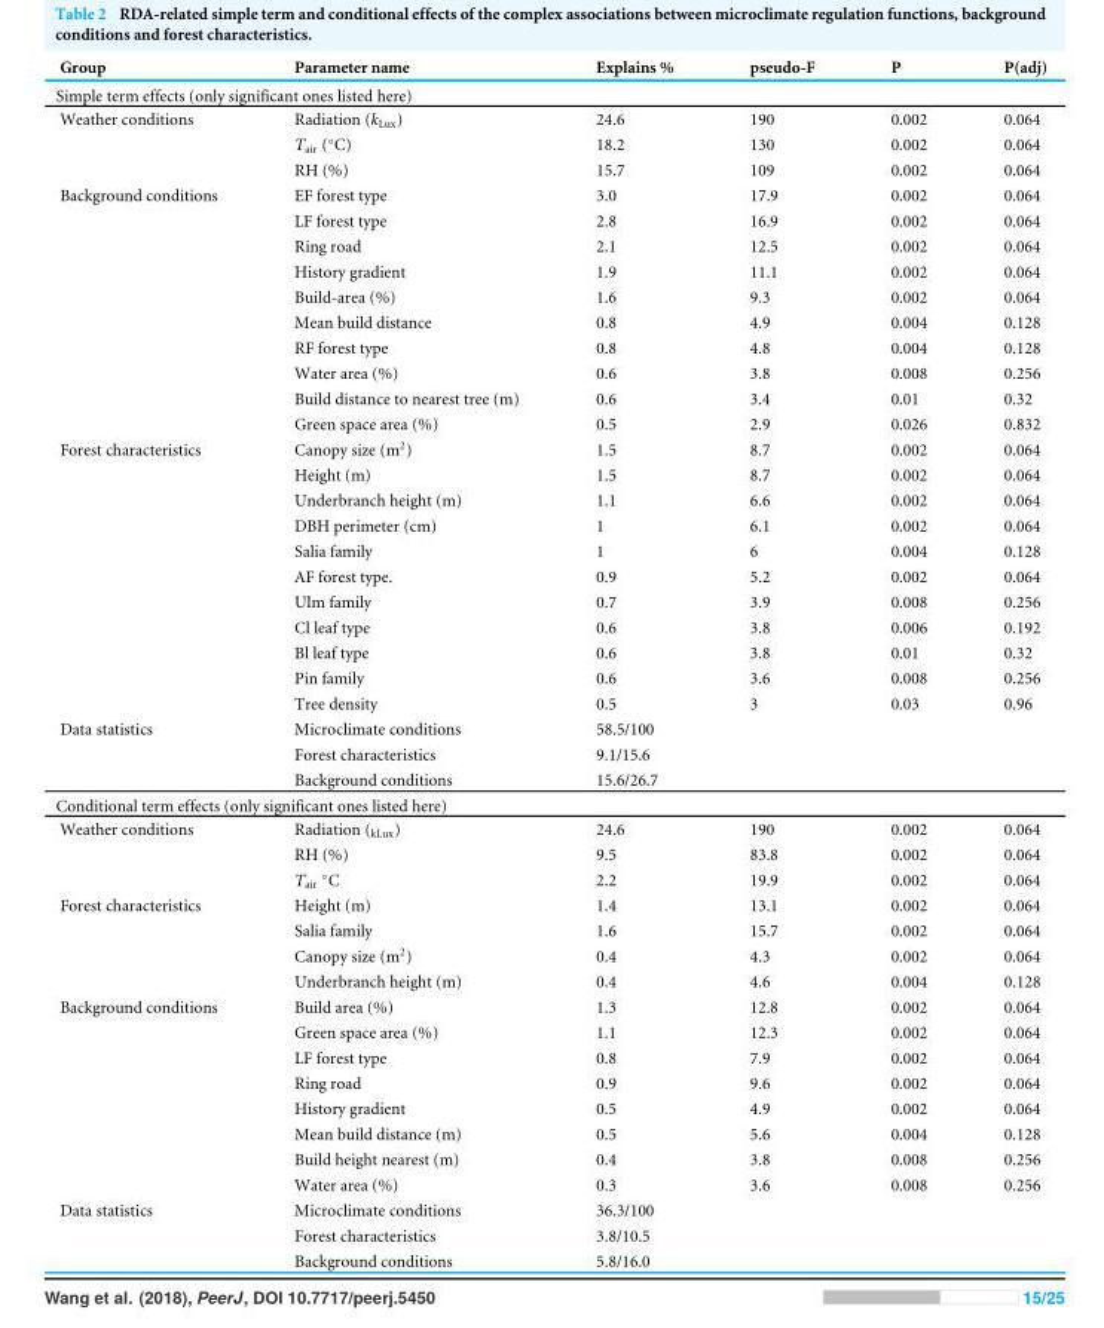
<table><thead><tr><td>Group</td><td>Parameter name</td><td>Explains %</td><td>pseudo-F</td><td>P</td><td>P(adj)</td></tr></thead><tbody><tr><td colspan="6">Simple term effects (only significant ones listed here)</td></tr><tr><td rowspan="3">Weather conditions</td><td>Radiation (k<sub>Lux</sub>)</td><td>24.6</td><td>190</td><td>0.002</td><td>0.064</td></tr><tr><td>Tair (◦C)</td><td>18.2</td><td>130</td><td>0.002</td><td>0.064</td></tr><tr><td>RH (%)</td><td>15.7</td><td>109</td><td>0.002</td><td>0.064</td></tr><tr><td rowspan="10">Background conditions</td><td>EF forest type</td><td>3.0</td><td>17.9</td><td>0.002</td><td>0.064</td></tr><tr><td>LF forest type</td><td>2.8</td><td>16.9</td><td>0.002</td><td>0.064</td></tr><tr><td>Ring road</td><td>2.1</td><td>12.5</td><td>0.002</td><td>0.064</td></tr><tr><td>History gradient</td><td>1.9</td><td>11.1</td><td>0.002</td><td>0.064</td></tr><tr><td>Build-area (%)</td><td>1.6</td><td>9.3</td><td>0.002</td><td>0.064</td></tr><tr><td>Mean build distance</td><td>0.8</td><td>4.9</td><td>0.004</td><td>0.128</td></tr><tr><td>RF forest type</td><td>0.8</td><td>4.8</td><td>0.004</td><td>0.128</td></tr><tr><td>Water area (%)</td><td>0.6</td><td>3.8</td><td>0.008</td><td>0.256</td></tr><tr><td>Build distance to nearest tree (m)</td><td>0.6</td><td>3.4</td><td>0.01</td><td>0.32</td></tr><tr><td>Green space area (%)</td><td>0.5</td><td>2.9</td><td>0.026</td><td>0.832</td></tr><tr><td rowspan="11">Forest characteristics</td><td>Canopy size (m<sup>2</sup>)</td><td>1.5</td><td>8.7</td><td>0.002</td><td>0.064</td></tr><tr><td>Height (m)</td><td>1.5</td><td>8.7</td><td>0.002</td><td>0.064</td></tr><tr><td>Underbranch height (m)</td><td>1.1</td><td>6.6</td><td>0.002</td><td>0.064</td></tr><tr><td>DBH perimeter (cm)</td><td>1</td><td>6.1</td><td>0.002</td><td>0.064</td></tr><tr><td>Salia family</td><td>1</td><td>6</td><td>0.004</td><td>0.128</td></tr><tr><td>AF forest type.</td><td>0.9</td><td>5.2</td><td>0.002</td><td>0.064</td></tr><tr><td>Ulm family</td><td>0.7</td><td>3.9</td><td>0.008</td><td>0.256</td></tr><tr><td>Cl leaf type</td><td>0.6</td><td>3.8</td><td>0.006</td><td>0.192</td></tr><tr><td>Bl leaf type</td><td>0.6</td><td>3.8</td><td>0.01</td><td>0.32</td></tr><tr><td>Pin family</td><td>0.6</td><td>3.6</td><td>0.008</td><td>0.256</td></tr><tr><td>Tree density</td><td>0.5</td><td>3</td><td>0.03</td><td>0.96</td></tr><tr><td rowspan="3">Data statistics</td><td>Microclimate conditions</td><td>58.5/100</td><td></td><td></td><td></td></tr><tr><td>Forest characteristics</td><td>9.1/15.6</td><td></td><td></td><td></td></tr><tr><td>Background conditions</td><td>15.6/26.7</td><td></td><td></td><td></td></tr><tr><td colspan="6">Conditional term effects (only significant ones listed here)</td></tr><tr><td rowspan="3">Weather conditions</td><td>Radiation (<sub>kLux</sub>)</td><td>24.6</td><td>190</td><td>0.002</td><td>0.064</td></tr><tr><td>RH (%)</td><td>9.5</td><td>83.8</td><td>0.002</td><td>0.064</td></tr><tr><td>Tair ◦C</td><td>2.2</td><td>19.9</td><td>0.002</td><td>0.064</td></tr><tr><td rowspan="4">Forest characteristics</td><td>Height (m)</td><td>1.4</td><td>13.1</td><td>0.002</td><td>0.064</td></tr><tr><td>Salia family</td><td>1.6</td><td>15.7</td><td>0.002</td><td>0.064</td></tr><tr><td>Canopy size (m<sup>2</sup>)</td><td>0.4</td><td>4.3</td><td>0.002</td><td>0.064</td></tr><tr><td>Underbranch height (m)</td><td>0.4</td><td>4.6</td><td>0.004</td><td>0.128</td></tr><tr><td rowspan="8">Background conditions</td><td>Build area (%)</td><td>1.3</td><td>12.8</td><td>0.002</td><td>0.064</td></tr><tr><td>Green space area (%)</td><td>1.1</td><td>12.3</td><td>0.002</td><td>0.064</td></tr><tr><td>LF forest type</td><td>0.8</td><td>7.9</td><td>0.002</td><td>0.064</td></tr><tr><td>Ring road</td><td>0.9</td><td>9.6</td><td>0.002</td><td>0.064</td></tr><tr><td>History gradient</td><td>0.5</td><td>4.9</td><td>0.002</td><td>0.064</td></tr><tr><td>Mean build distance (m)</td><td>0.5</td><td>5.6</td><td>0.004</td><td>0.128</td></tr><tr><td>Build height nearest (m)</td><td>0.4</td><td>3.8</td><td>0.008</td><td>0.256</td></tr><tr><td>Water area (%)</td><td>0.3</td><td>3.6</td><td>0.008</td><td>0.256</td></tr><tr><td rowspan="3">Data statistics</td><td>Microclimate conditions</td><td>36.3/100</td><td></td><td></td><td></td></tr><tr><td>Forest characteristics</td><td>3.8/10.5</td><td></td><td></td><td></td></tr><tr><td>Background conditions</td><td>5.8/16.0</td><td></td><td></td><td></td></tr></tbody></table>